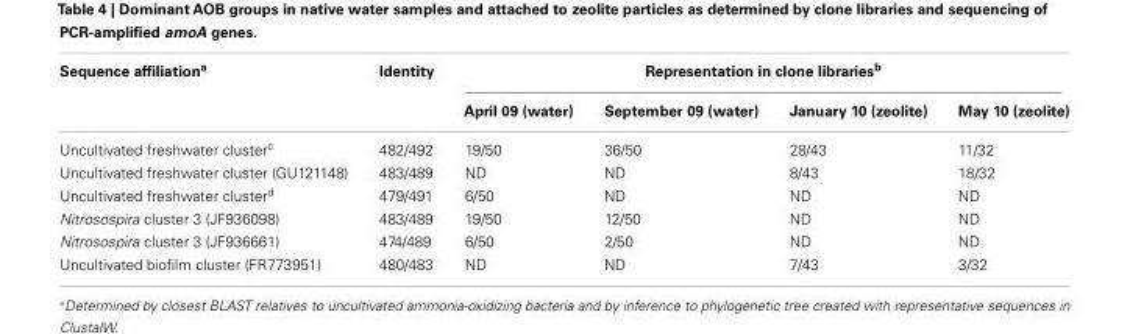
<table><thead><tr><td rowspan="2">Sequence affiliation<sup>a</sup></td><td rowspan="2">Identity</td><td colspan="4">Representation in clone libraries<sup>b</sup></td></tr><tr><td>April 09 (water)</td><td>September 09 (water)</td><td>January 10 (zeolite)</td><td>May 10 (zeolite)</td></tr></thead><tbody><tr><td>Uncultivated freshwater cluster<sup>c</sup></td><td>482/492</td><td>19/50</td><td>36/50</td><td>28/43</td><td>11/32</td></tr><tr><td>Uncultivated freshwater cluster (GU121148)</td><td>483/489</td><td>ND</td><td>ND</td><td>8/43</td><td>18/32</td></tr><tr><td>Uncultivated freshwater cluster<sup>d</sup></td><td>479/491</td><td>6/50</td><td>ND</td><td>ND</td><td>ND</td></tr><tr><td>Nitrosospira cluster 3 (JF936098)</td><td>483/489</td><td>19/50</td><td>12/50</td><td>ND</td><td>ND</td></tr><tr><td>Nitrosospira cluster 3 (JF936661)</td><td>474/489</td><td>6/50</td><td>2/50</td><td>ND</td><td>ND</td></tr><tr><td>Uncultivated biofilm cluster (FR773951)</td><td>480/483</td><td>ND</td><td>ND</td><td>7/43</td><td>3/32</td></tr></tbody></table>